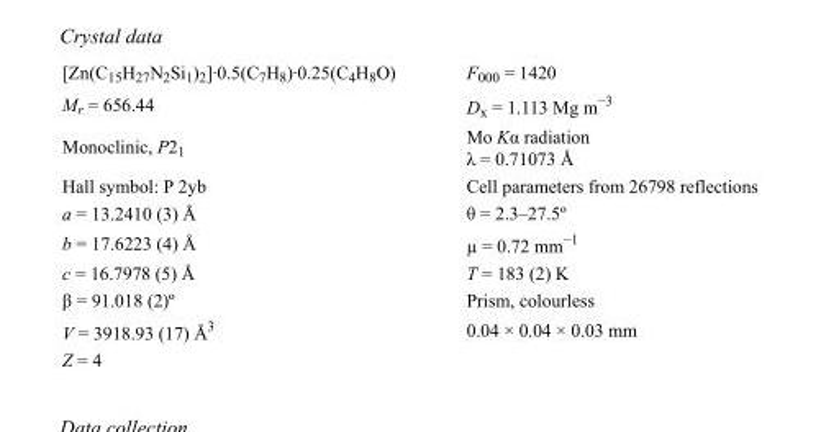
<table><tbody><tr><td>[Zn(C<sub>15</sub>H<sub>27</sub>N<sub>2</sub>Si<sub>1</sub>)<sub>2</sub>]·0.5(C<sub>7</sub>H<sub>8</sub>)·0.25(C<sub>4</sub>H<sub>8</sub>O)</td><td>F<sub>000</sub> = 1420</td></tr><tr><td>M<sub>r</sub> = 656.44</td><td>D<sub>x</sub> = 1.113 Mg m<sup>−3</sup></td></tr><tr><td>Monoclinic, P2<sub>1</sub></td><td>Mo Kα radiation λ = 0.71073 Å</td></tr><tr><td>Hall symbol: P 2yb</td><td>Cell parameters from 26798 reflections</td></tr><tr><td>a = 13.2410 (3) Å</td><td>θ = 2.3–27.5º</td></tr><tr><td>b = 17.6223 (4) Å</td><td>µ = 0.72 mm<sup>−1</sup></td></tr><tr><td>c = 16.7978 (5) Å</td><td>T = 183 (2) K</td></tr><tr><td>β = 91.018 (2)º</td><td>Prism, colourless</td></tr><tr><td>V = 3918.93 (17) Å<sup>3</sup></td><td>0.04 × 0.04 × 0.03 mm</td></tr><tr><td>Z = 4</td><td></td></tr></tbody></table>